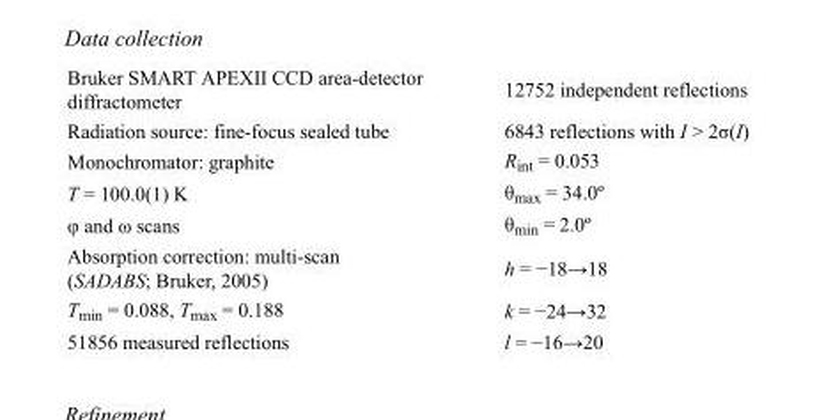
<table><tbody><tr><td>Bruker SMART APEXII CCD area-detector diffractometer</td><td>12752 independent reflections</td></tr><tr><td>Radiation source: fine-focus sealed tube</td><td>6843 reflections with I &gt; 2σ(I)</td></tr><tr><td>Monochromator: graphite</td><td>R<sub>int</sub> = 0.053</td></tr><tr><td>T = 100.0(1) K</td><td>θ<sub>max</sub> = 34.0º</td></tr><tr><td>φ and ω scans</td><td>θ<sub>min</sub> = 2.0º</td></tr><tr><td>Absorption correction: multi-scan (SADABS; Bruker, 2005)</td><td>h = −18→18</td></tr><tr><td>T<sub>min</sub> = 0.088, T<sub>max</sub> = 0.188</td><td>k = −24→32</td></tr><tr><td>51856 measured reflections</td><td>l = −16→20</td></tr></tbody></table>